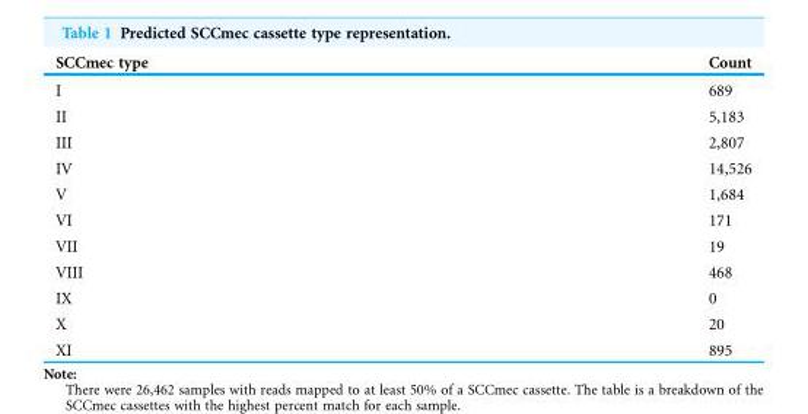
<table><thead><tr><td>SCCmec type</td><td>Count</td></tr></thead><tbody><tr><td>I</td><td>689</td></tr><tr><td>II</td><td>5,183</td></tr><tr><td>III</td><td>2,807</td></tr><tr><td>IV</td><td>14,526</td></tr><tr><td>V</td><td>1,684</td></tr><tr><td>VI</td><td>171</td></tr><tr><td>VII</td><td>19</td></tr><tr><td>VIII</td><td>468</td></tr><tr><td>IX</td><td>0</td></tr><tr><td>X</td><td>20</td></tr><tr><td>XI</td><td>895</td></tr></tbody></table>